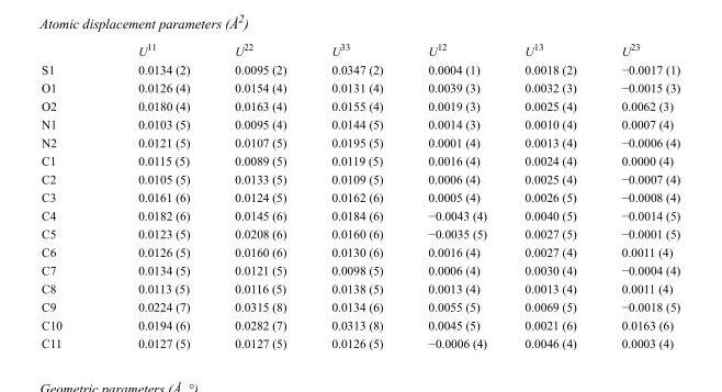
<table><thead><tr><td></td><td>U<sup>11</sup></td><td>U<sup>22</sup></td><td>U<sup>33</sup></td><td>U<sup>12</sup></td><td>U<sup>13</sup></td><td>U<sup>23</sup></td></tr></thead><tbody><tr><td>S1</td><td>0.0134 (2)</td><td>0.0095 (2)</td><td>0.0347 (2)</td><td>0.0004 (1)</td><td>0.0018 (2)</td><td>−0.0017 (1)</td></tr><tr><td>O1</td><td>0.0126 (4)</td><td>0.0154 (4)</td><td>0.0131 (4)</td><td>0.0039 (3)</td><td>0.0032 (3)</td><td>−0.0015 (3)</td></tr><tr><td>O2</td><td>0.0180 (4)</td><td>0.0163 (4)</td><td>0.0155 (4)</td><td>0.0019 (3)</td><td>0.0025 (4)</td><td>0.0062 (3)</td></tr><tr><td>N1</td><td>0.0103 (5)</td><td>0.0095 (4)</td><td>0.0144 (5)</td><td>0.0014 (3)</td><td>0.0010 (4)</td><td>0.0007 (4)</td></tr><tr><td>N2</td><td>0.0121 (5)</td><td>0.0107 (5)</td><td>0.0195 (5)</td><td>0.0001 (4)</td><td>0.0013 (4)</td><td>−0.0006 (4)</td></tr><tr><td>C1</td><td>0.0115 (5)</td><td>0.0089 (5)</td><td>0.0119 (5)</td><td>0.0016 (4)</td><td>0.0024 (4)</td><td>0.0000 (4)</td></tr><tr><td>C2</td><td>0.0105 (5)</td><td>0.0133 (5)</td><td>0.0109 (5)</td><td>0.0006 (4)</td><td>0.0025 (4)</td><td>−0.0007 (4)</td></tr><tr><td>C3</td><td>0.0161 (6)</td><td>0.0124 (5)</td><td>0.0162 (6)</td><td>0.0005 (4)</td><td>0.0026 (5)</td><td>−0.0008 (4)</td></tr><tr><td>C4</td><td>0.0182 (6)</td><td>0.0145 (6)</td><td>0.0184 (6)</td><td>−0.0043 (4)</td><td>0.0040 (5)</td><td>−0.0014 (5)</td></tr><tr><td>C5</td><td>0.0123 (5)</td><td>0.0208 (6)</td><td>0.0160 (6)</td><td>−0.0035 (5)</td><td>0.0027 (5)</td><td>−0.0001 (5)</td></tr><tr><td>C6</td><td>0.0126 (5)</td><td>0.0160 (6)</td><td>0.0130 (6)</td><td>0.0016 (4)</td><td>0.0027 (4)</td><td>0.0011 (4)</td></tr><tr><td>C7</td><td>0.0134 (5)</td><td>0.0121 (5)</td><td>0.0098 (5)</td><td>0.0006 (4)</td><td>0.0030 (4)</td><td>−0.0004 (4)</td></tr><tr><td>C8</td><td>0.0113 (5)</td><td>0.0116 (5)</td><td>0.0138 (5)</td><td>0.0013 (4)</td><td>0.0013 (4)</td><td>0.0011 (4)</td></tr><tr><td>C9</td><td>0.0224 (7)</td><td>0.0315 (8)</td><td>0.0134 (6)</td><td>0.0055 (5)</td><td>0.0069 (5)</td><td>−0.0018 (5)</td></tr><tr><td>C10</td><td>0.0194 (6)</td><td>0.0282 (7)</td><td>0.0313 (8)</td><td>0.0045 (5)</td><td>0.0021 (6)</td><td>0.0163 (6)</td></tr><tr><td>C11</td><td>0.0127 (5)</td><td>0.0127 (5)</td><td>0.0126 (5)</td><td>−0.0006 (4)</td><td>0.0046 (4)</td><td>0.0003 (4)</td></tr></tbody></table>